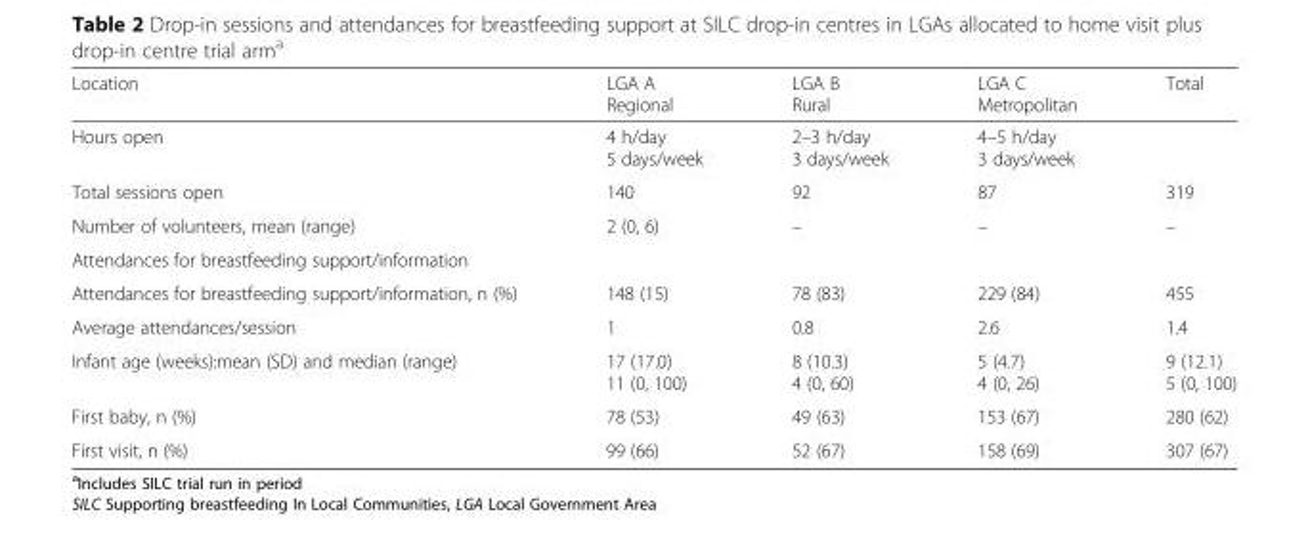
<table><thead><tr><td>Location</td><td>LGA A Regional</td><td>LGA B Rural</td><td>LGA C Metropolitan</td><td>Total</td></tr></thead><tbody><tr><td>Hours open</td><td>4 h/day 5 days/week</td><td>2–3 h/day 3 days/week</td><td>4–5 h/day 3 days/week</td><td></td></tr><tr><td>Total sessions open</td><td>140</td><td>92</td><td>87</td><td>319</td></tr><tr><td>Number of volunteers, mean (range)</td><td>2 (0, 6)</td><td>–</td><td>–</td><td>–</td></tr><tr><td colspan="5">Attendances for breastfeeding support/information</td></tr><tr><td>Attendances for breastfeeding support/information, n (%)</td><td>148 (15)</td><td>78 (83)</td><td>229 (84)</td><td>455</td></tr><tr><td>Average attendances/session</td><td>1</td><td>0.8</td><td>2.6</td><td>1.4</td></tr><tr><td>Infant age (weeks):mean (SD) and median (range)</td><td>17 (17.0) 11 (0, 100)</td><td>8 (10.3) 4 (0, 60)</td><td>5 (4.7) 4 (0, 26)</td><td>9 (12.1) 5 (0, 100)</td></tr><tr><td>First baby, n (%)</td><td>78 (53)</td><td>49 (63)</td><td>153 (67)</td><td>280 (62)</td></tr><tr><td>First visit, n (%)</td><td>99 (66)</td><td>52 (67)</td><td>158 (69)</td><td>307 (67)</td></tr></tbody></table>